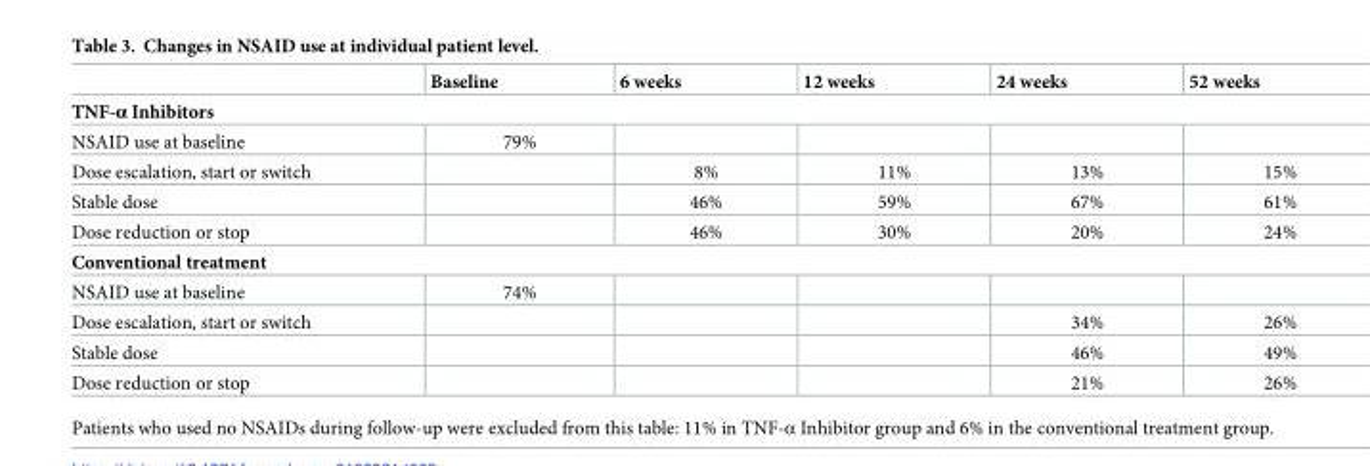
<table><thead><tr><td></td><td>Baseline</td><td>6 weeks</td><td>12 weeks</td><td>24 weeks</td><td>52 weeks</td></tr></thead><tbody><tr><td colspan="6">TNF-α Inhibitors</td></tr><tr><td>NSAID use at baseline</td><td>79%</td><td></td><td></td><td></td><td></td></tr><tr><td>Dose escalation, start or switch</td><td></td><td>8%</td><td>11%</td><td>13%</td><td>15%</td></tr><tr><td>Stable dose</td><td></td><td>46%</td><td>59%</td><td>67%</td><td>61%</td></tr><tr><td>Dose reduction or stop</td><td></td><td>46%</td><td>30%</td><td>20%</td><td>24%</td></tr><tr><td colspan="6">Conventional treatment</td></tr><tr><td>NSAID use at baseline</td><td>74%</td><td></td><td></td><td></td><td></td></tr><tr><td>Dose escalation, start or switch</td><td></td><td></td><td></td><td>34%</td><td>26%</td></tr><tr><td>Stable dose</td><td></td><td></td><td></td><td>46%</td><td>49%</td></tr><tr><td>Dose reduction or stop</td><td></td><td></td><td></td><td>21%</td><td>26%</td></tr></tbody></table>